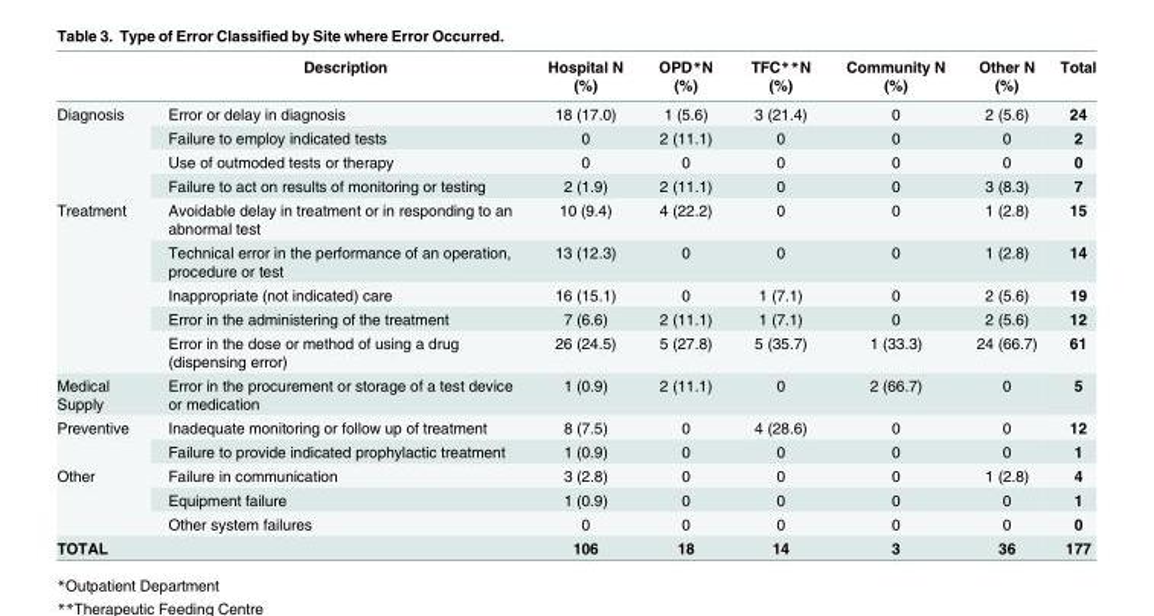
<table><thead><tr><td></td><td>Description</td><td>Hospital N (%)</td><td>OPD*N (%)</td><td>TFC**N (%)</td><td>Community N (%)</td><td>Other N (%)</td><td>Total</td></tr></thead><tbody><tr><td rowspan="4">Diagnosis</td><td>Error or delay in diagnosis</td><td>18 (17.0)</td><td>1 (5.6)</td><td>3 (21.4)</td><td>0</td><td>2 (5.6)</td><td>24</td></tr><tr><td>Failure to employ indicated tests</td><td>0</td><td>2 (11.1)</td><td>0</td><td>0</td><td>0</td><td>2</td></tr><tr><td>Use of outmoded tests or therapy</td><td>0</td><td>0</td><td>0</td><td>0</td><td>0</td><td>0</td></tr><tr><td>Failure to act on results of monitoring or testing</td><td>2 (1.9)</td><td>2 (11.1)</td><td>0</td><td>0</td><td>3 (8.3)</td><td>7</td></tr><tr><td rowspan="5">Treatment</td><td>Avoidable delay in treatment or in responding to an abnormal test</td><td>10 (9.4)</td><td>4 (22.2)</td><td>0</td><td>0</td><td>1 (2.8)</td><td>15</td></tr><tr><td>Technical error in the performance of an operation, procedure or test</td><td>13 (12.3)</td><td>0</td><td>0</td><td>0</td><td>1 (2.8)</td><td>14</td></tr><tr><td>Inappropriate (not indicated) care</td><td>16 (15.1)</td><td>0</td><td>1 (7.1)</td><td>0</td><td>2 (5.6)</td><td>19</td></tr><tr><td>Error in the administering of the treatment</td><td>7 (6.6)</td><td>2 (11.1)</td><td>1 (7.1)</td><td>0</td><td>2 (5.6)</td><td>12</td></tr><tr><td>Error in the dose or method of using a drug (dispensing error)</td><td>26 (24.5)</td><td>5 (27.8)</td><td>5 (35.7)</td><td>1 (33.3)</td><td>24 (66.7)</td><td>61</td></tr><tr><td>Medical Supply</td><td>Error in the procurement or storage of a test device or medication</td><td>1 (0.9)</td><td>2 (11.1)</td><td>0</td><td>2 (66.7)</td><td>0</td><td>5</td></tr><tr><td rowspan="2">Preventive</td><td>Inadequate monitoring or follow up of treatment</td><td>8 (7.5)</td><td>0</td><td>4 (28.6)</td><td>0</td><td>0</td><td>12</td></tr><tr><td>Failure to provide indicated prophylactic treatment</td><td>1 (0.9)</td><td>0</td><td>0</td><td>0</td><td>0</td><td>1</td></tr><tr><td rowspan="3">Other</td><td>Failure in communication</td><td>3 (2.8)</td><td>0</td><td>0</td><td>0</td><td>1 (2.8)</td><td>4</td></tr><tr><td>Equipment failure</td><td>1 (0.9)</td><td>0</td><td>0</td><td>0</td><td>0</td><td>1</td></tr><tr><td>Other system failures</td><td>0</td><td>0</td><td>0</td><td>0</td><td>0</td><td>0</td></tr><tr><td>TOTAL</td><td></td><td>106</td><td>18</td><td>14</td><td>3</td><td>36</td><td>177</td></tr></tbody></table>